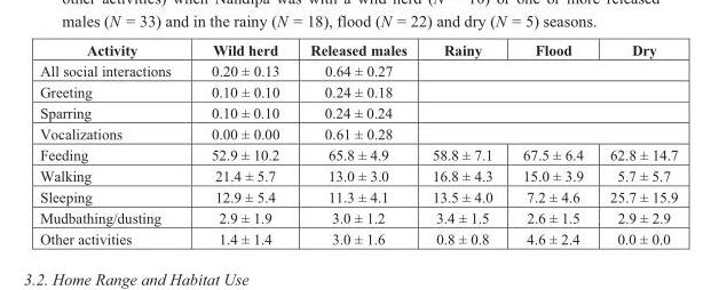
<table><thead><tr><td>Activity</td><td>Wild herd</td><td>Released males</td><td>Rainy</td><td>Flood</td><td>Dry</td></tr></thead><tbody><tr><td>All social interactions</td><td>0.20 ± 0.13</td><td>0.64 ± 0.27</td><td colspan="3"></td></tr><tr><td>Greeting</td><td>0.10 ± 0.10</td><td>0.24 ± 0.18</td><td colspan="3"></td></tr><tr><td>Sparring</td><td>0.10 ± 0.10</td><td>0.24 ± 0.24</td><td colspan="3"></td></tr><tr><td>Vocalizations</td><td>0.00 ± 0.00</td><td>0.61 ± 0.28</td><td colspan="3"></td></tr><tr><td>Feeding</td><td>52.9 ± 10.2</td><td>65.8 ± 4.9</td><td>58.8 ± 7.1</td><td>67.5 ± 6.4</td><td>62.8 ± 14.7</td></tr><tr><td>Walking</td><td>21.4 ± 5.7</td><td>13.0 ± 3.0</td><td>16.8 ± 4.3</td><td>15.0 ± 3.9</td><td>5.7 ± 5.7</td></tr><tr><td>Sleeping</td><td>12.9 ± 5.4</td><td>11.3 ± 4.1</td><td>13.5 ± 4.0</td><td>7.2 ± 4.6</td><td>25.7 ± 15.9</td></tr><tr><td>Mudbathing/dusting</td><td>2.9 ± 1.9</td><td>3.0 ± 1.2</td><td>3.4 ± 1.5</td><td>2.6 ± 1.5</td><td>2.9 ± 2.9</td></tr><tr><td>Other activities</td><td>1.4 ± 1.4</td><td>3.0 ± 1.6</td><td>0.8 ± 0.8</td><td>4.6 ± 2.4</td><td>0.0 ± 0.0</td></tr></tbody></table>